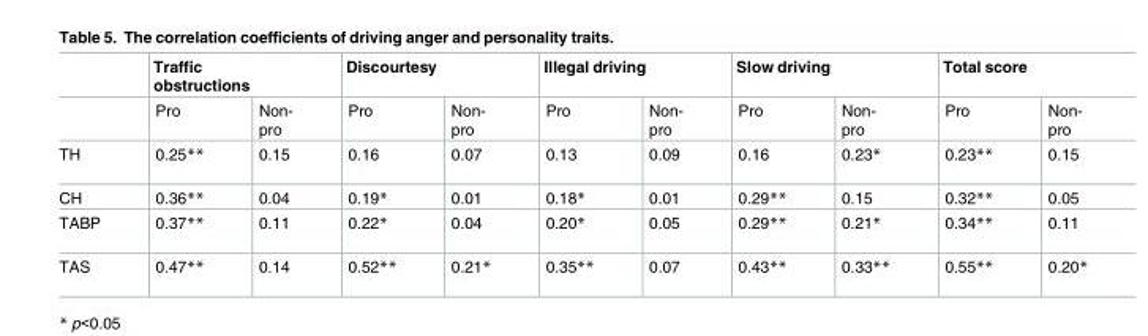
<table><thead><tr><td rowspan="2"></td><td colspan="2">Traffic obstructions</td><td colspan="2">Discourtesy</td><td colspan="2">Illegal driving</td><td colspan="2">Slow driving</td><td colspan="2">Total score</td></tr><tr><td>Pro</td><td>Non- pro</td><td>Pro</td><td>Non- pro</td><td>Pro</td><td>Non- pro</td><td>Pro</td><td>Non- pro</td><td>Pro</td><td>Non- pro</td></tr></thead><tbody><tr><td>TH</td><td>0.25**</td><td>0.15</td><td>0.16</td><td>0.07</td><td>0.13</td><td>0.09</td><td>0.16</td><td>0.23*</td><td>0.23**</td><td>0.15</td></tr><tr><td>CH</td><td>0.36**</td><td>0.04</td><td>0.19*</td><td>0.01</td><td>0.18*</td><td>0.01</td><td>0.29**</td><td>0.15</td><td>0.32**</td><td>0.05</td></tr><tr><td>TABP</td><td>0.37**</td><td>0.11</td><td>0.22*</td><td>0.04</td><td>0.20*</td><td>0.05</td><td>0.29**</td><td>0.21*</td><td>0.34**</td><td>0.11</td></tr><tr><td>TAS</td><td>0.47**</td><td>0.14</td><td>0.52**</td><td>0.21*</td><td>0.35**</td><td>0.07</td><td>0.43**</td><td>0.33**</td><td>0.55**</td><td>0.20*</td></tr></tbody></table>